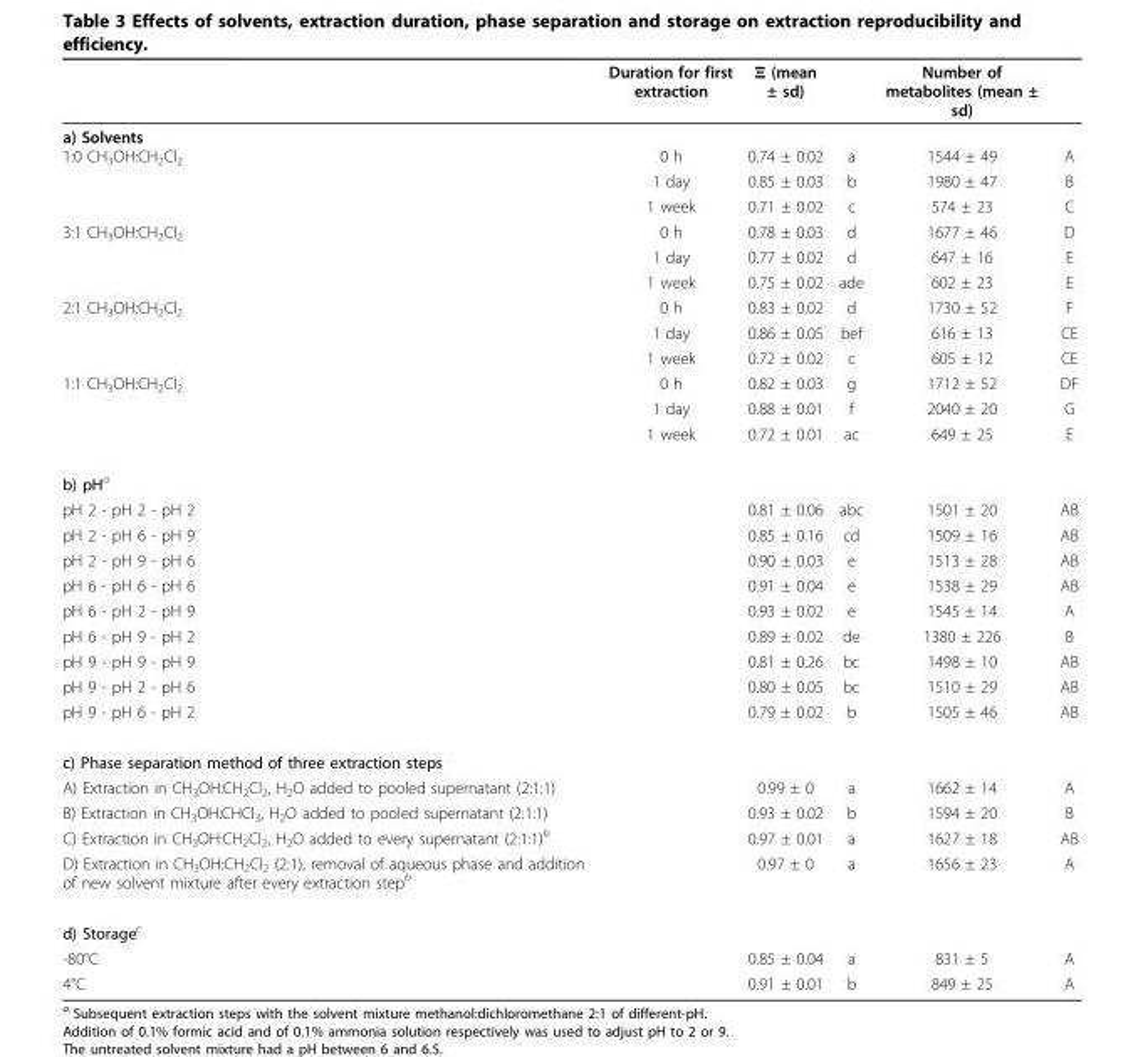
<table><thead><tr><td></td><td>Duration for first extraction</td><td>Ξ (mean ± sd)</td><td></td><td>Number of metabolites (mean ± sd)</td><td></td></tr></thead><tbody><tr><td colspan="6">a) Solvents</td></tr><tr><td rowspan="3">1:0 CH<sub>3</sub>OH:CH<sub>2</sub>Cl<sub>2</sub></td><td>0 h</td><td>0.74 ± 0.02</td><td>a</td><td>1544 ± 49</td><td>A</td></tr><tr><td>1 day</td><td>0.85 ± 0.03</td><td>b</td><td>1980 ± 47</td><td>B</td></tr><tr><td>1 week</td><td>0.71 ± 0.02</td><td>c</td><td>574 ± 23</td><td>C</td></tr><tr><td rowspan="3">3:1 CH<sub>3</sub>OH:CH<sub>2</sub>Cl<sub>2</sub></td><td>0 h</td><td>0.78 ± 0.03</td><td>d</td><td>1677 ± 46</td><td>D</td></tr><tr><td>1 day</td><td>0.77 ± 0.02</td><td>d</td><td>647 ± 16</td><td>E</td></tr><tr><td>1 week</td><td>0.75 ± 0.02</td><td>ade</td><td>602 ± 23</td><td>E</td></tr><tr><td rowspan="3">2:1 CH<sub>3</sub>OH:CH<sub>2</sub>Cl<sub>2</sub></td><td>0 h</td><td>0.83 ± 0.02</td><td>d</td><td>1730 ± 52</td><td>F</td></tr><tr><td>1 day</td><td>0.86 ± 0.05</td><td>bef</td><td>616 ± 13</td><td>CE</td></tr><tr><td>1 week</td><td>0.72 ± 0.02</td><td>c</td><td>605 ± 12</td><td>CE</td></tr><tr><td rowspan="3">1:1 CH<sub>3</sub>OH:CH<sub>2</sub>Cl<sub>2</sub></td><td>0 h</td><td>0.82 ± 0.03</td><td>g</td><td>1712 ± 52</td><td>DF</td></tr><tr><td>1 day</td><td>0.88 ± 0.01</td><td>f</td><td>2040 ± 20</td><td>G</td></tr><tr><td>1 week</td><td>0.72 ± 0.01</td><td>ac</td><td>649 ± 25</td><td>E</td></tr><tr><td colspan="6">b) pH<sup>a</sup></td></tr><tr><td>pH 2 - pH 2 - pH 2</td><td></td><td>0.81 ± 0.06</td><td>abc</td><td>1501 ± 20</td><td>AB</td></tr><tr><td>pH 2 - pH 6 - pH 9</td><td></td><td>0.85 ± 0.16</td><td>cd</td><td>1509 ± 16</td><td>AB</td></tr><tr><td>pH 2 - pH 9 - pH 6</td><td></td><td>0.90 ± 0.03</td><td>e</td><td>1513 ± 28</td><td>AB</td></tr><tr><td>pH 6 - pH 6 - pH 6</td><td></td><td>0.91 ± 0.04</td><td>e</td><td>1538 ± 29</td><td>AB</td></tr><tr><td>pH 6 - pH 2 - pH 9</td><td></td><td>0.93 ± 0.02</td><td>e</td><td>1545 ± 14</td><td>A</td></tr><tr><td>pH 6 - pH 9 - pH 2</td><td></td><td>0.89 ± 0.02</td><td>de</td><td>1380 ± 226</td><td>B</td></tr><tr><td>pH 9 - pH 9 - pH 9</td><td></td><td>0.81 ± 0.26</td><td>bc</td><td>1498 ± 10</td><td>AB</td></tr><tr><td>pH 9 - pH 2 - pH 6</td><td></td><td>0.80 ± 0.05</td><td>bc</td><td>1510 ± 29</td><td>AB</td></tr><tr><td>pH 9 - pH 6 - pH 2</td><td></td><td>0.79 ± 0.02</td><td>b</td><td>1505 ± 46</td><td>AB</td></tr><tr><td colspan="6">c) Phase separation method of three extraction steps</td></tr><tr><td>A) Extraction in CH<sub>3</sub>OH:CH<sub>2</sub>Cl<sub>2</sub>, H<sub>2</sub>O added to pooled supernatant (2:1:1)</td><td></td><td>0.99 ± 0</td><td>a</td><td>1662 ± 14</td><td>A</td></tr><tr><td>B) Extraction in CH<sub>3</sub>OH:CHCl<sub>3</sub>, H<sub>2</sub>O added to pooled supernatant (2:1:1)</td><td></td><td>0.93 ± 0.02</td><td>b</td><td>1594 ± 20</td><td>B</td></tr><tr><td>C) Extraction in CH<sub>3</sub>OH:CH<sub>2</sub>Cl<sub>2</sub>, H<sub>2</sub>O added to every supernatant (2:1:1)<sup>b</sup></td><td></td><td>0.97 ± 0.01</td><td>a</td><td>1627 ± 18</td><td>AB</td></tr><tr><td>D) Extraction in CH<sub>3</sub>OH:CH<sub>2</sub>Cl<sub>2</sub> (2:1), removal of aqueous phase and addition of new solvent mixture after every extraction step<sup>b</sup></td><td></td><td>0.97 ± 0</td><td>a</td><td>1656 ± 23</td><td>A</td></tr><tr><td colspan="6">d) Storage<sup>c</sup></td></tr><tr><td>-80°C</td><td></td><td>0.85 ± 0.04</td><td>a</td><td>831 ± 5</td><td>A</td></tr><tr><td>4°C</td><td></td><td>0.91 ± 0.01</td><td>b</td><td>849 ± 25</td><td>A</td></tr></tbody></table>